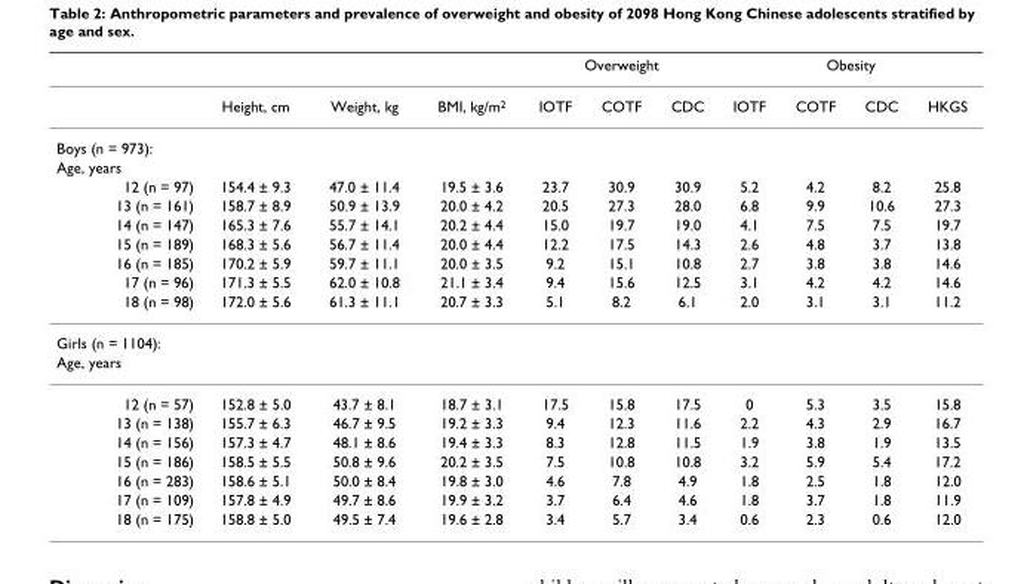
<table><thead><tr><td rowspan="2"></td><td rowspan="2">Height, cm</td><td rowspan="2">Weight, kg</td><td rowspan="2">BMI, kg/m<sup>2</sup></td><td colspan="3">Overweight</td><td colspan="4">Obesity</td></tr><tr><td>IOTF</td><td>COTF</td><td>CDC</td><td>IOTF</td><td>COTF</td><td>CDC</td><td>HKGS</td></tr></thead><tbody><tr><td colspan="11">Boys (n = 973):</td></tr><tr><td colspan="11">Age, years</td></tr><tr><td>12 (n = 97)</td><td>154.4 ± 9.3</td><td>47.0 ± 11.4</td><td>19.5 ± 3.6</td><td>23.7</td><td>30.9</td><td>30.9</td><td>5.2</td><td>4.2</td><td>8.2</td><td>25.8</td></tr><tr><td>13 (n = 161)</td><td>158.7 ± 8.9</td><td>50.9 ± 13.9</td><td>20.0 ± 4.2</td><td>20.5</td><td>27.3</td><td>28.0</td><td>6.8</td><td>9.9</td><td>10.6</td><td>27.3</td></tr><tr><td>14 (n = 147)</td><td>165.3 ± 7.6</td><td>55.7 ± 14.1</td><td>20.2 ± 4.4</td><td>15.0</td><td>19.7</td><td>19.0</td><td>4.1</td><td>7.5</td><td>7.5</td><td>19.7</td></tr><tr><td>15 (n = 189)</td><td>168.3 ± 5.6</td><td>56.7 ± 11.4</td><td>20.0 ± 4.4</td><td>12.2</td><td>17.5</td><td>14.3</td><td>2.6</td><td>4.8</td><td>3.7</td><td>13.8</td></tr><tr><td>16 (n = 185)</td><td>170.2 ± 5.9</td><td>59.7 ± 11.1</td><td>20.0 ± 3.5</td><td>9.2</td><td>15.1</td><td>10.8</td><td>2.7</td><td>3.8</td><td>3.8</td><td>14.6</td></tr><tr><td>17 (n = 96)</td><td>171.3 ± 5.5</td><td>62.0 ± 10.8</td><td>21.1 ± 3.4</td><td>9.4</td><td>15.6</td><td>12.5</td><td>3.1</td><td>4.2</td><td>4.2</td><td>14.6</td></tr><tr><td>18 (n = 98)</td><td>172.0 ± 5.6</td><td>61.3 ± 11.1</td><td>20.7 ± 3.3</td><td>5.1</td><td>8.2</td><td>6.1</td><td>2.0</td><td>3.1</td><td>3.1</td><td>11.2</td></tr><tr><td colspan="11">Girls (n = 1104):</td></tr><tr><td colspan="11">Age, years</td></tr><tr><td>12 (n = 57)</td><td>152.8 ± 5.0</td><td>43.7 ± 8.1</td><td>18.7 ± 3.1</td><td>17.5</td><td>15.8</td><td>17.5</td><td>0</td><td>5.3</td><td>3.5</td><td>15.8</td></tr><tr><td>13 (n = 138)</td><td>155.7 ± 6.3</td><td>46.7 ± 9.5</td><td>19.2 ± 3.3</td><td>9.4</td><td>12.3</td><td>11.6</td><td>2.2</td><td>4.3</td><td>2.9</td><td>16.7</td></tr><tr><td>14 (n = 156)</td><td>157.3 ± 4.7</td><td>48.1 ± 8.6</td><td>19.4 ± 3.3</td><td>8.3</td><td>12.8</td><td>11.5</td><td>1.9</td><td>3.8</td><td>1.9</td><td>13.5</td></tr><tr><td>15 (n = 186)</td><td>158.5 ± 5.5</td><td>50.8 ± 9.6</td><td>20.2 ± 3.5</td><td>7.5</td><td>10.8</td><td>10.8</td><td>3.2</td><td>5.9</td><td>5.4</td><td>17.2</td></tr><tr><td>16 (n = 283)</td><td>158.6 ± 5.1</td><td>50.0 ± 8.4</td><td>19.8 ± 3.0</td><td>4.6</td><td>7.8</td><td>4.9</td><td>1.8</td><td>2.5</td><td>1.8</td><td>12.0</td></tr><tr><td>17 (n = 109)</td><td>157.8 ± 4.9</td><td>49.7 ± 8.6</td><td>19.9 ± 3.2</td><td>3.7</td><td>6.4</td><td>4.6</td><td>1.8</td><td>3.7</td><td>1.8</td><td>11.9</td></tr><tr><td>18 (n = 175)</td><td>158.8 ± 5.0</td><td>49.5 ± 7.4</td><td>19.6 ± 2.8</td><td>3.4</td><td>5.7</td><td>3.4</td><td>0.6</td><td>2.3</td><td>0.6</td><td>12.0</td></tr></tbody></table>